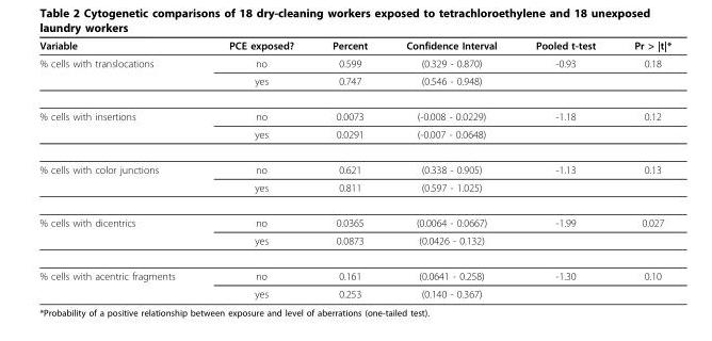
<table><thead><tr><td>Variable</td><td>PCE exposed?</td><td>Percent</td><td>Confidence Interval</td><td>Pooled t-test</td><td>Pr &gt; |t|*</td></tr></thead><tbody><tr><td rowspan="2">% cells with translocations</td><td>no</td><td>0.599</td><td>(0.329 - 0.870)</td><td>-0.93</td><td>0.18</td></tr><tr><td>yes</td><td>0.747</td><td>(0.546 - 0.948)</td><td></td><td></td></tr><tr><td rowspan="2">% cells with insertions</td><td>no</td><td>0.0073</td><td>(-0.008 - 0.0229)</td><td>-1.18</td><td>0.12</td></tr><tr><td>yes</td><td>0.0291</td><td>(-0.007 - 0.0648)</td><td></td><td></td></tr><tr><td rowspan="2">% cells with color junctions</td><td>no</td><td>0.621</td><td>(0.338 - 0.905)</td><td>-1.13</td><td>0.13</td></tr><tr><td>yes</td><td>0.811</td><td>(0.597 - 1.025)</td><td></td><td></td></tr><tr><td rowspan="2">% cells with dicentrics</td><td>no</td><td>0.0365</td><td>(0.0064 - 0.0667)</td><td>-1.99</td><td>0.027</td></tr><tr><td>yes</td><td>0.0873</td><td>(0.0426 - 0.132)</td><td></td><td></td></tr><tr><td rowspan="2">% cells with acentric fragments</td><td>no</td><td>0.161</td><td>(0.0641 - 0.258)</td><td>-1.30</td><td>0.10</td></tr><tr><td>yes</td><td>0.253</td><td>(0.140 - 0.367)</td><td></td><td></td></tr></tbody></table>